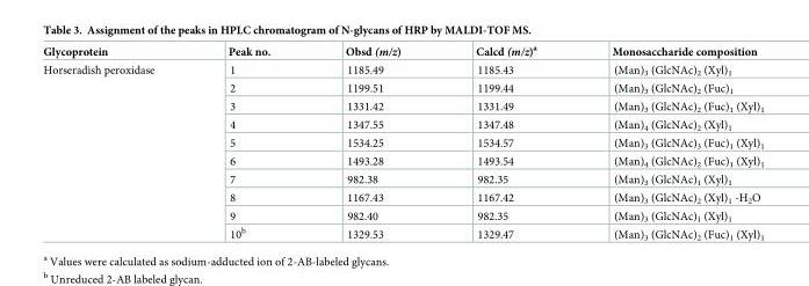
<table><thead><tr><td>Glycoprotein</td><td>Peak no.</td><td>Obsd (m/z)</td><td>Calcd (m/z)<sup>a</sup></td><td>Monosaccharide composition</td></tr></thead><tbody><tr><td rowspan="10">Horseradish peroxidase</td><td>1</td><td>1185.49</td><td>1185.43</td><td>(Man)<sub>3</sub> (GlcNAc)<sub>2</sub> (Xyl)<sub>1</sub></td></tr><tr><td>2</td><td>1199.51</td><td>1199.44</td><td>(Man)<sub>3</sub> (GlcNAc)<sub>2</sub> (Fuc)<sub>1</sub></td></tr><tr><td>3</td><td>1331.42</td><td>1331.49</td><td>(Man)<sub>3</sub> (GlcNAc)<sub>2</sub> (Fuc)<sub>1</sub> (Xyl)<sub>1</sub></td></tr><tr><td>4</td><td>1347.55</td><td>1347.48</td><td>(Man)<sub>4</sub> (GlcNAc)<sub>2</sub> (Xyl)<sub>1</sub></td></tr><tr><td>5</td><td>1534.25</td><td>1534.57</td><td>(Man)<sub>3</sub> (GlcNAc)<sub>3</sub> (Fuc)<sub>1</sub> (Xyl)<sub>1</sub></td></tr><tr><td>6</td><td>1493.28</td><td>1493.54</td><td>(Man)<sub>4</sub> (GlcNAc)<sub>2</sub> (Fuc)<sub>1</sub> (Xyl)<sub>1</sub></td></tr><tr><td>7</td><td>982.38</td><td>982.35</td><td>(Man)<sub>3</sub> (GlcNAc)<sub>1</sub> (Xyl)<sub>1</sub></td></tr><tr><td>8</td><td>1167.43</td><td>1167.42</td><td>(Man)<sub>3</sub> (GlcNAc)<sub>2</sub> (Xyl)<sub>1</sub> -H<sub>2</sub>O</td></tr><tr><td>9</td><td>982.40</td><td>982.35</td><td>(Man)<sub>3</sub> (GlcNAc)<sub>1</sub> (Xyl)<sub>1</sub></td></tr><tr><td>10<sup>b</sup></td><td>1329.53</td><td>1329.47</td><td>(Man)<sub>3</sub> (GlcNAc)<sub>2</sub> (Fuc)<sub>1</sub> (Xyl)<sub>1</sub></td></tr></tbody></table>